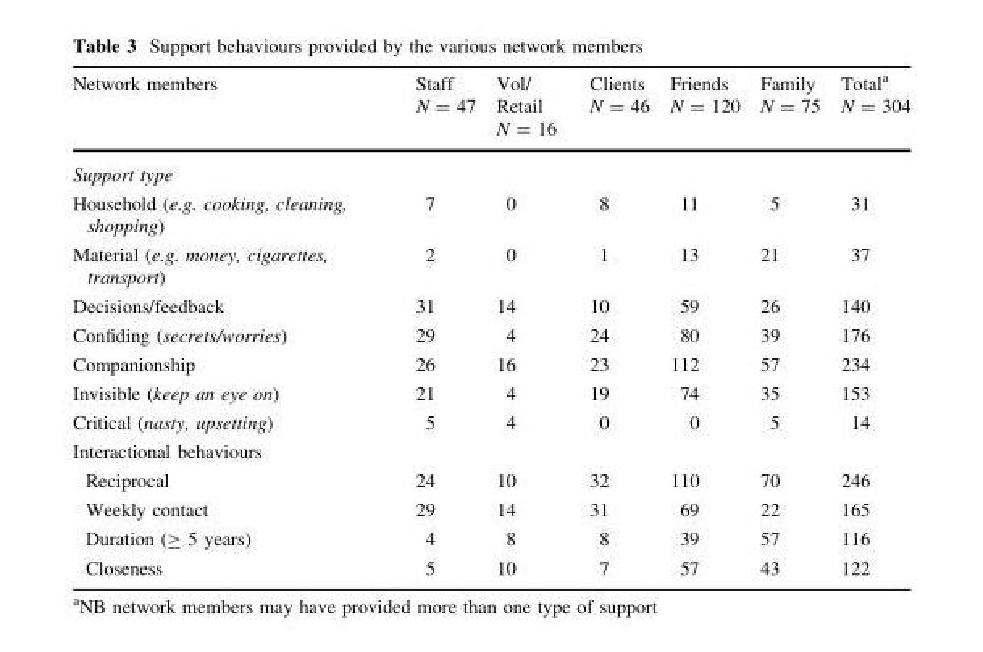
<table><thead><tr><td>Network members</td><td>Staff N = 47</td><td>Vol/ Retail N = 16</td><td>Clients N = 46</td><td>Friends N = 120</td><td>Family N = 75</td><td>Total<sup>a</sup> N = 304</td></tr></thead><tbody><tr><td colspan="7">Support type</td></tr><tr><td>Household (e.g. cooking, cleaning, shopping)</td><td>7</td><td>0</td><td>8</td><td>11</td><td>5</td><td>31</td></tr><tr><td>Material (e.g. money, cigarettes, transport)</td><td>2</td><td>0</td><td>1</td><td>13</td><td>21</td><td>37</td></tr><tr><td>Decisions/feedback</td><td>31</td><td>14</td><td>10</td><td>59</td><td>26</td><td>140</td></tr><tr><td>Confiding (secrets/worries)</td><td>29</td><td>4</td><td>24</td><td>80</td><td>39</td><td>176</td></tr><tr><td>Companionship</td><td>26</td><td>16</td><td>23</td><td>112</td><td>57</td><td>234</td></tr><tr><td>Invisible (keep an eye on)</td><td>21</td><td>4</td><td>19</td><td>74</td><td>35</td><td>153</td></tr><tr><td>Critical (nasty, upsetting)</td><td>5</td><td>4</td><td>0</td><td>0</td><td>5</td><td>14</td></tr><tr><td colspan="7">Interactional behaviours</td></tr><tr><td>Reciprocal</td><td>24</td><td>10</td><td>32</td><td>110</td><td>70</td><td>246</td></tr><tr><td>Weekly contact</td><td>29</td><td>14</td><td>31</td><td>69</td><td>22</td><td>165</td></tr><tr><td>Duration (≥ 5 years)</td><td>4</td><td>8</td><td>8</td><td>39</td><td>57</td><td>116</td></tr><tr><td>Closeness</td><td>5</td><td>10</td><td>7</td><td>57</td><td>43</td><td>122</td></tr></tbody></table>